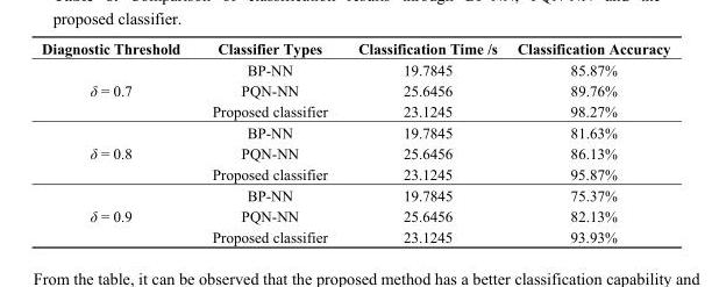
<table><thead><tr><td>Diagnostic Threshold</td><td>Classifier Types</td><td>Classification Time /s</td><td>Classification Accuracy</td></tr></thead><tbody><tr><td rowspan="3">δ = 0.7</td><td>BP-NN</td><td>19.7845</td><td>85.87%</td></tr><tr><td>PQN-NN</td><td>25.6456</td><td>89.76%</td></tr><tr><td>Proposed classifier</td><td>23.1245</td><td>98.27%</td></tr><tr><td rowspan="3">δ = 0.8</td><td>BP-NN</td><td>19.7845</td><td>81.63%</td></tr><tr><td>PQN-NN</td><td>25.6456</td><td>86.13%</td></tr><tr><td>Proposed classifier</td><td>23.1245</td><td>95.87%</td></tr><tr><td rowspan="3">δ = 0.9</td><td>BP-NN</td><td>19.7845</td><td>75.37%</td></tr><tr><td>PQN-NN</td><td>25.6456</td><td>82.13%</td></tr><tr><td>Proposed classifier</td><td>23.1245</td><td>93.93%</td></tr></tbody></table>